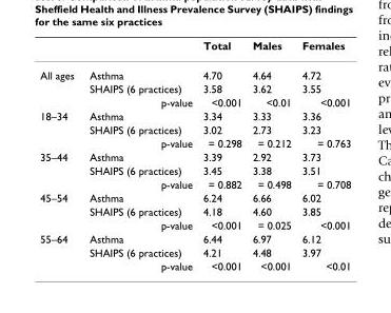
<table><thead><tr><td></td><td></td><td>Total</td><td>Males</td><td>Females</td></tr></thead><tbody><tr><td rowspan="3">All ages</td><td>Asthma</td><td>4.70</td><td>4.64</td><td>4.72</td></tr><tr><td>SHAIPS (6 practices)</td><td>3.58</td><td>3.62</td><td>3.55</td></tr><tr><td>p-value</td><td>&lt;0.001</td><td>&lt;0.01</td><td>&lt;0.001</td></tr><tr><td rowspan="3">18–34</td><td>Asthma</td><td>3.34</td><td>3.33</td><td>3.36</td></tr><tr><td>SHAIPS (6 practices)</td><td>3.02</td><td>2.73</td><td>3.23</td></tr><tr><td>p-value</td><td>= 0.298</td><td>= 0.212</td><td>= 0.763</td></tr><tr><td rowspan="3">35–44</td><td>Asthma</td><td>3.39</td><td>2.92</td><td>3.73</td></tr><tr><td>SHAIPS (6 practices)</td><td>3.45</td><td>3.38</td><td>3.51</td></tr><tr><td>p-value</td><td>= 0.882</td><td>= 0.498</td><td>= 0.708</td></tr><tr><td rowspan="3">45–54</td><td>Asthma</td><td>6.24</td><td>6.66</td><td>6.02</td></tr><tr><td>SHAIPS (6 practices)</td><td>4.18</td><td>4.60</td><td>3.85</td></tr><tr><td>p-value</td><td>&lt;0.001</td><td>= 0.025</td><td>&lt;0.001</td></tr><tr><td rowspan="3">55–64</td><td>Asthma</td><td>6.44</td><td>6.97</td><td>6.12</td></tr><tr><td>SHAIPS (6 practices)</td><td>4.21</td><td>4.48</td><td>3.97</td></tr><tr><td>p-value</td><td>&lt;0.001</td><td>&lt;0.001</td><td>&lt;0.01</td></tr></tbody></table>